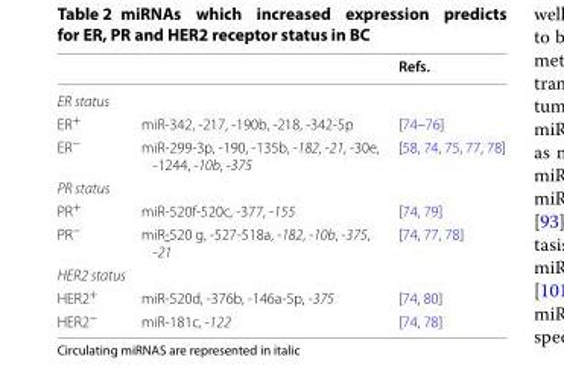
<table><thead><tr><td></td><td></td><td>Refs.</td></tr></thead><tbody><tr><td colspan="3">ER status</td></tr><tr><td>ER<sup>+</sup></td><td>miR-342, -217, -190b, -218, -342-5p</td><td>[74–76]</td></tr><tr><td>ER<sup>−</sup></td><td>miR-299-3p, -190, -135b, -182, -21, -30e, -1244, -10b, -375</td><td>[58, 74, 75, 77, 78]</td></tr><tr><td colspan="3">PR status</td></tr><tr><td>PR<sup>+</sup></td><td>miR-520f-520c, -377, -155</td><td>[74, 79]</td></tr><tr><td>PR<sup>−</sup></td><td>miR-520 g, -527-518a, -182, -10b, -375, -21</td><td>[74, 77, 78]</td></tr><tr><td colspan="3">HER2 status</td></tr><tr><td>HER2<sup>+</sup></td><td>miR-520d, -376b, -146a-5p, -375</td><td>[74, 80]</td></tr><tr><td>HER2<sup>−</sup></td><td>miR-181c, -122</td><td>[74, 78]</td></tr></tbody></table>